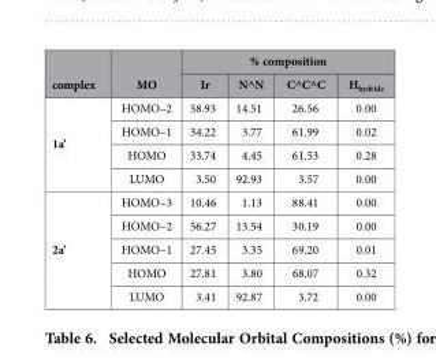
<table><thead><tr><td rowspan="2">complex</td><td rowspan="2">MO</td><td colspan="4">% composition</td></tr><tr><td>Ir</td><td>N^N</td><td>C^C^C</td><td>H<sub>hydride</sub></td></tr></thead><tbody><tr><td rowspan="4">1a’</td><td>HOMO–2</td><td>58.93</td><td>14.51</td><td>26.56</td><td>0.00</td></tr><tr><td>HOMO–1</td><td>34.22</td><td>3.77</td><td>61.99</td><td>0.02</td></tr><tr><td>HOMO</td><td>33.74</td><td>4.45</td><td>61.53</td><td>0.28</td></tr><tr><td>LUMO</td><td>3.50</td><td>92.93</td><td>3.57</td><td>0.00</td></tr><tr><td rowspan="5">2a’</td><td>HOMO–3</td><td>10.46</td><td>1.13</td><td>88.41</td><td>0.00</td></tr><tr><td>HOMO–2</td><td>56.27</td><td>13.54</td><td>30.19</td><td>0.00</td></tr><tr><td>HOMO–1</td><td>27.45</td><td>3.35</td><td>69.20</td><td>0.01</td></tr><tr><td>HOMO</td><td>27.81</td><td>3.80</td><td>68.07</td><td>0.32</td></tr><tr><td>LUMO</td><td>3.41</td><td>92.87</td><td>3.72</td><td>0.00</td></tr></tbody></table>